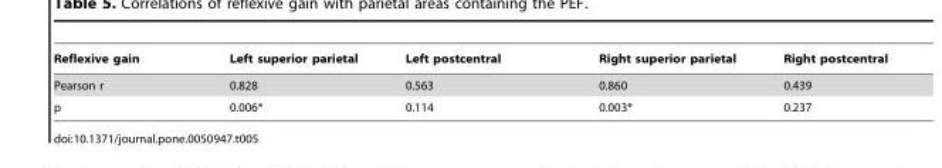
<table><thead><tr><td>Reflexive gain</td><td>Left superior parietal</td><td>Left postcentral</td><td>Right superior parietal</td><td>Right postcentral</td></tr></thead><tbody><tr><td>Pearson r</td><td>0.828</td><td>0.563</td><td>0.860</td><td>0.439</td></tr><tr><td>p</td><td>0.006*</td><td>0.114</td><td>0.003*</td><td>0.237</td></tr></tbody></table>